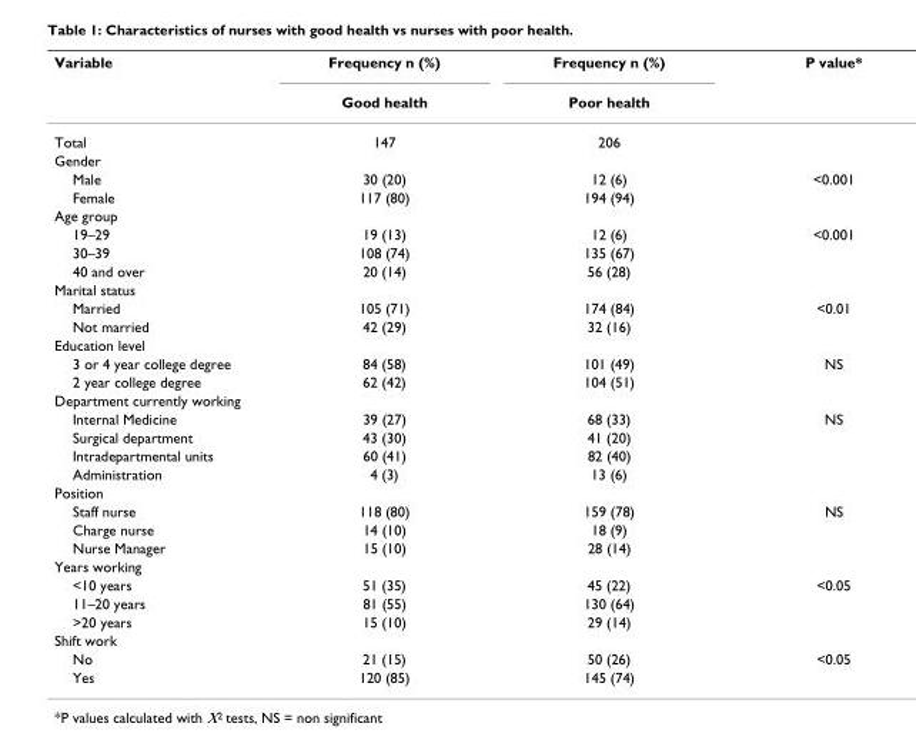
<table><thead><tr><td rowspan="2">Variable</td><td rowspan="2">Frequency n (%) Good health</td><td rowspan="2">Frequency n (%) Poor health</td><td rowspan="2">P value*</td></tr><tr></tr></thead><tbody><tr><td>Total</td><td>147</td><td>206</td><td></td></tr><tr><td colspan="4">Gender</td></tr><tr><td>Male</td><td>30 (20)</td><td>12 (6)</td><td>&lt;0.001</td></tr><tr><td>Female</td><td>117 (80)</td><td>194 (94)</td><td></td></tr><tr><td colspan="4">Age group</td></tr><tr><td>19–29</td><td>19 (13)</td><td>12 (6)</td><td>&lt;0.001</td></tr><tr><td>30–39</td><td>108 (74)</td><td>135 (67)</td><td></td></tr><tr><td>40 and over</td><td>20 (14)</td><td>56 (28)</td><td></td></tr><tr><td colspan="4">Marital status</td></tr><tr><td>Married</td><td>105 (71)</td><td>174 (84)</td><td>&lt;0.01</td></tr><tr><td>Not married</td><td>42 (29)</td><td>32 (16)</td><td></td></tr><tr><td colspan="4">Education level</td></tr><tr><td>3 or 4 year college degree</td><td>84 (58)</td><td>101 (49)</td><td>NS</td></tr><tr><td>2 year college degree</td><td>62 (42)</td><td>104 (51)</td><td></td></tr><tr><td colspan="4">Department currently working</td></tr><tr><td>Internal Medicine</td><td>39 (27)</td><td>68 (33)</td><td>NS</td></tr><tr><td>Surgical department</td><td>43 (30)</td><td>41 (20)</td><td></td></tr><tr><td>Intradepartmental units</td><td>60 (41)</td><td>82 (40)</td><td></td></tr><tr><td>Administration</td><td>4 (3)</td><td>13 (6)</td><td></td></tr><tr><td colspan="4">Position</td></tr><tr><td>Staff nurse</td><td>118 (80)</td><td>159 (78)</td><td>NS</td></tr><tr><td>Charge nurse</td><td>14 (10)</td><td>18 (9)</td><td></td></tr><tr><td>Nurse Manager</td><td>15 (10)</td><td>28 (14)</td><td></td></tr><tr><td colspan="4">Years working</td></tr><tr><td>&lt;10 years</td><td>51 (35)</td><td>45 (22)</td><td>&lt;0.05</td></tr><tr><td>11–20 years</td><td>81 (55)</td><td>130 (64)</td><td></td></tr><tr><td>&gt;20 years</td><td>15 (10)</td><td>29 (14)</td><td></td></tr><tr><td colspan="4">Shift work</td></tr><tr><td>No</td><td>21 (15)</td><td>50 (26)</td><td>&lt;0.05</td></tr><tr><td>Yes</td><td>120 (85)</td><td>145 (74)</td><td></td></tr></tbody></table>